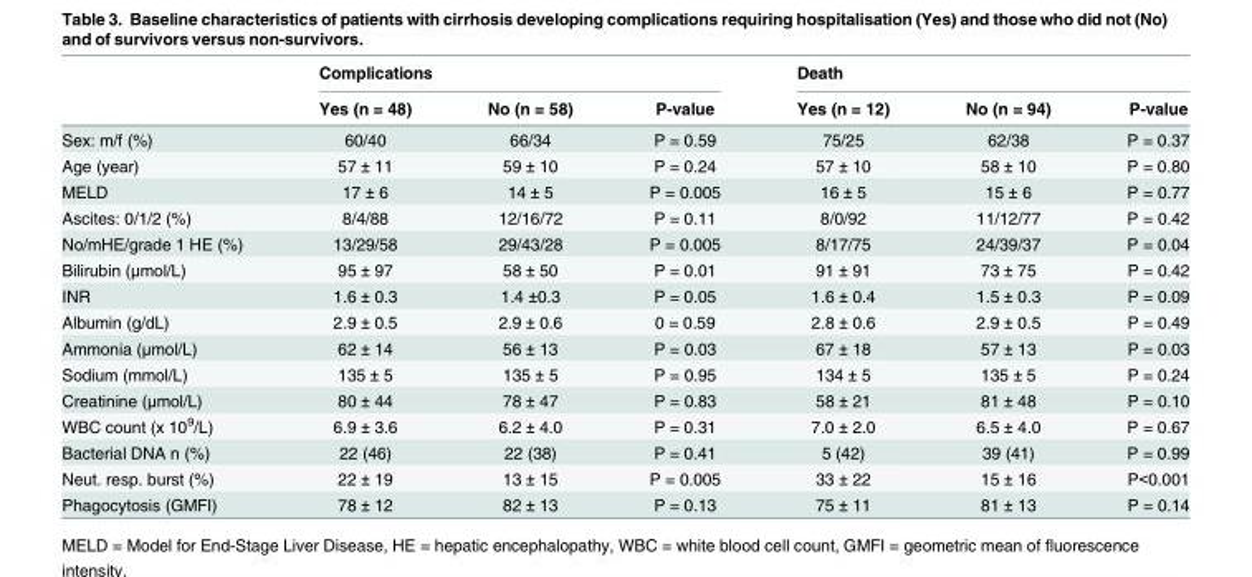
<table><thead><tr><td rowspan="2"></td><td colspan="3">Complications</td><td colspan="3">Death</td></tr><tr><td>Yes (n = 48)</td><td>No (n = 58)</td><td>P-value</td><td>Yes (n = 12)</td><td>No (n = 94)</td><td>P-value</td></tr></thead><tbody><tr><td>Sex: m/f (%)</td><td>60/40</td><td>66/34</td><td>P = 0.59</td><td>75/25</td><td>62/38</td><td>P = 0.37</td></tr><tr><td>Age (year)</td><td>57 ± 11</td><td>59 ± 10</td><td>P = 0.24</td><td>57 ± 10</td><td>58 ± 10</td><td>P = 0.80</td></tr><tr><td>MELD</td><td>17 ± 6</td><td>14 ± 5</td><td>P = 0.005</td><td>16 ± 5</td><td>15 ± 6</td><td>P = 0.77</td></tr><tr><td>Ascites: 0/1/2 (%)</td><td>8/4/88</td><td>12/16/72</td><td>P = 0.11</td><td>8/0/92</td><td>11/12/77</td><td>P = 0.42</td></tr><tr><td>No/mHE/grade 1 HE (%)</td><td>13/29/58</td><td>29/43/28</td><td>P = 0.005</td><td>8/17/75</td><td>24/39/37</td><td>P = 0.04</td></tr><tr><td>Bilirubin (μmol/L)</td><td>95 ± 97</td><td>58 ± 50</td><td>P = 0.01</td><td>91 ± 91</td><td>73 ± 75</td><td>P = 0.42</td></tr><tr><td>INR</td><td>1.6 ± 0.3</td><td>1.4 ±0.3</td><td>P = 0.05</td><td>1.6 ± 0.4</td><td>1.5 ± 0.3</td><td>P = 0.09</td></tr><tr><td>Albumin (g/dL)</td><td>2.9 ± 0.5</td><td>2.9 ± 0.6</td><td>0 = 0.59</td><td>2.8 ± 0.6</td><td>2.9 ± 0.5</td><td>P = 0.49</td></tr><tr><td>Ammonia (μmol/L)</td><td>62 ± 14</td><td>56 ± 13</td><td>P = 0.03</td><td>67 ± 18</td><td>57 ± 13</td><td>P = 0.03</td></tr><tr><td>Sodium (mmol/L)</td><td>135 ± 5</td><td>135 ± 5</td><td>P = 0.95</td><td>134 ± 5</td><td>135 ± 5</td><td>P = 0.24</td></tr><tr><td>Creatinine (μmol/L)</td><td>80 ± 44</td><td>78 ± 47</td><td>P = 0.83</td><td>58 ± 21</td><td>81 ± 48</td><td>P = 0.10</td></tr><tr><td>WBC count (x 10<sup>9</sup>/L)</td><td>6.9 ± 3.6</td><td>6.2 ± 4.0</td><td>P = 0.31</td><td>7.0 ± 2.0</td><td>6.5 ± 4.0</td><td>P = 0.67</td></tr><tr><td>Bacterial DNA n (%)</td><td>22 (46)</td><td>22 (38)</td><td>P = 0.41</td><td>5 (42)</td><td>39 (41)</td><td>P = 0.99</td></tr><tr><td>Neut. resp. burst (%)</td><td>22 ± 19</td><td>13 ± 15</td><td>P = 0.005</td><td>33 ± 22</td><td>15 ± 16</td><td>P&lt;0.001</td></tr><tr><td>Phagocytosis (GMFI)</td><td>78 ± 12</td><td>82 ± 13</td><td>P = 0.13</td><td>75 ± 11</td><td>81 ± 13</td><td>P = 0.14</td></tr></tbody></table>